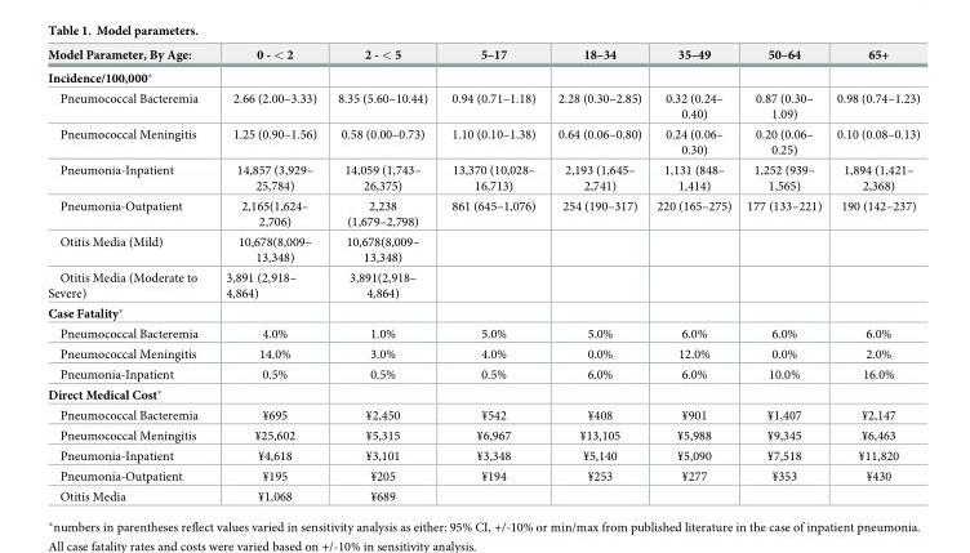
<table><thead><tr><td>Model Parameter, By Age:</td><td>0 - &lt; 2</td><td>2 - &lt; 5</td><td>5–17</td><td>18–34</td><td>35–49</td><td>50–64</td><td>65+</td></tr></thead><tbody><tr><td colspan="8">Incidence/100,000*</td></tr><tr><td>Pneumococcal Bacteremia</td><td>2.66 (2.00–3.33)</td><td>8.35 (5.60–10.44)</td><td>0.94 (0.71–1.18)</td><td>2.28 (0.30–2.85)</td><td>0.32 (0.24– 0.40)</td><td>0.87 (0.30– 1.09)</td><td>0.98 (0.74–1.23)</td></tr><tr><td>Pneumococcal Meningitis</td><td>1.25 (0.90–1.56)</td><td>0.58 (0.00–0.73)</td><td>1.10 (0.10–1.38)</td><td>0.64 (0.06–0.80)</td><td>0.24 (0.06– 0.30)</td><td>0.20 (0.06– 0.25)</td><td>0.10 (0.08–0.13)</td></tr><tr><td>Pneumonia-Inpatient</td><td>14,857 (3,929– 25,784)</td><td>14,059 (1,743– 26,375)</td><td>13,370 (10,028– 16,713)</td><td>2,193 (1,645– 2,741)</td><td>1,131 (848– 1,414)</td><td>1,252 (939– 1,565)</td><td>1,894 (1,421– 2,368)</td></tr><tr><td>Pneumonia-Outpatient</td><td>2,165(1,624– 2,706)</td><td>2,238 (1,679–2,798)</td><td>861 (645–1,076)</td><td>254 (190–317)</td><td>220 (165–275)</td><td>177 (133–221)</td><td>190 (142–237)</td></tr><tr><td>Otitis Media (Mild)</td><td>10,678(8,009– 13,348)</td><td>10,678(8,009– 13,348)</td><td></td><td></td><td></td><td></td><td></td></tr><tr><td>Otitis Media (Moderate to Severe)</td><td>3,891 (2,918– 4,864)</td><td>3,891(2,918– 4,864)</td><td></td><td></td><td></td><td></td><td></td></tr><tr><td colspan="8">Case Fatality*</td></tr><tr><td>Pneumococcal Bacteremia</td><td>4.0%</td><td>1.0%</td><td>5.0%</td><td>5.0%</td><td>6.0%</td><td>6.0%</td><td>6.0%</td></tr><tr><td>Pneumococcal Meningitis</td><td>14.0%</td><td>3.0%</td><td>4.0%</td><td>0.0%</td><td>12.0%</td><td>0.0%</td><td>2.0%</td></tr><tr><td>Pneumonia-Inpatient</td><td>0.5%</td><td>0.5%</td><td>0.5%</td><td>6.0%</td><td>6.0%</td><td>10.0%</td><td>16.0%</td></tr><tr><td colspan="8">Direct Medical Cost*</td></tr><tr><td>Pneumococcal Bacteremia</td><td>¥695</td><td>¥2,450</td><td>¥542</td><td>¥408</td><td>¥901</td><td>¥1,407</td><td>¥2,147</td></tr><tr><td>Pneumococcal Meningitis</td><td>¥25,602</td><td>¥5,315</td><td>¥6,967</td><td>¥13,105</td><td>¥5,988</td><td>¥9,345</td><td>¥6,463</td></tr><tr><td>Pneumonia-Inpatient</td><td>¥4,618</td><td>¥3,101</td><td>¥3,348</td><td>¥5,140</td><td>¥5,090</td><td>¥7,518</td><td>¥11,820</td></tr><tr><td>Pneumonia-Outpatient</td><td>¥195</td><td>¥205</td><td>¥194</td><td>¥253</td><td>¥277</td><td>¥353</td><td>¥430</td></tr><tr><td>Otitis Media</td><td>¥1,068</td><td>¥689</td><td></td><td></td><td></td><td></td><td></td></tr></tbody></table>